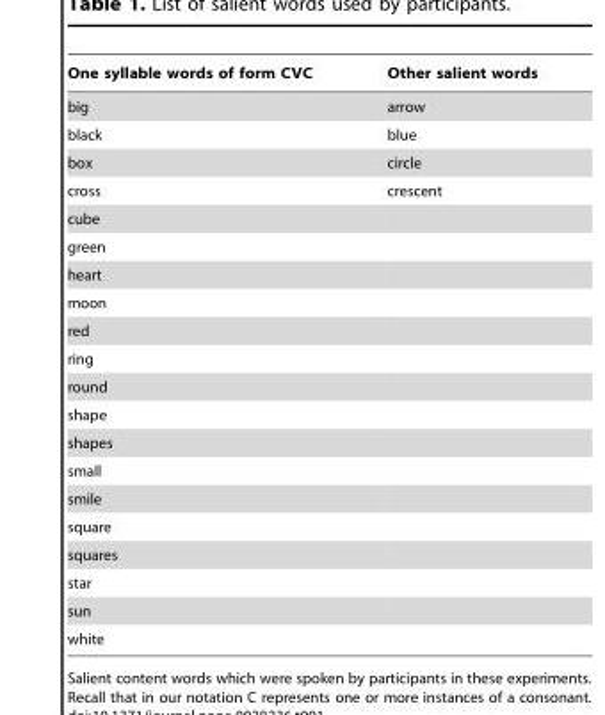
<table><thead><tr><td>One syllable words of form CVC</td><td>Other salient words</td></tr></thead><tbody><tr><td>big</td><td>arrow</td></tr><tr><td>black</td><td>blue</td></tr><tr><td>box</td><td>circle</td></tr><tr><td>cross</td><td>crescent</td></tr><tr><td colspan="2">cube</td></tr><tr><td colspan="2">green</td></tr><tr><td colspan="2">heart</td></tr><tr><td colspan="2">moon</td></tr><tr><td colspan="2">red</td></tr><tr><td colspan="2">ring</td></tr><tr><td colspan="2">round</td></tr><tr><td colspan="2">shape</td></tr><tr><td colspan="2">shapes</td></tr><tr><td colspan="2">small</td></tr><tr><td colspan="2">smile</td></tr><tr><td colspan="2">square</td></tr><tr><td colspan="2">squares</td></tr><tr><td colspan="2">star</td></tr><tr><td colspan="2">sun</td></tr><tr><td>white</td><td></td></tr></tbody></table>